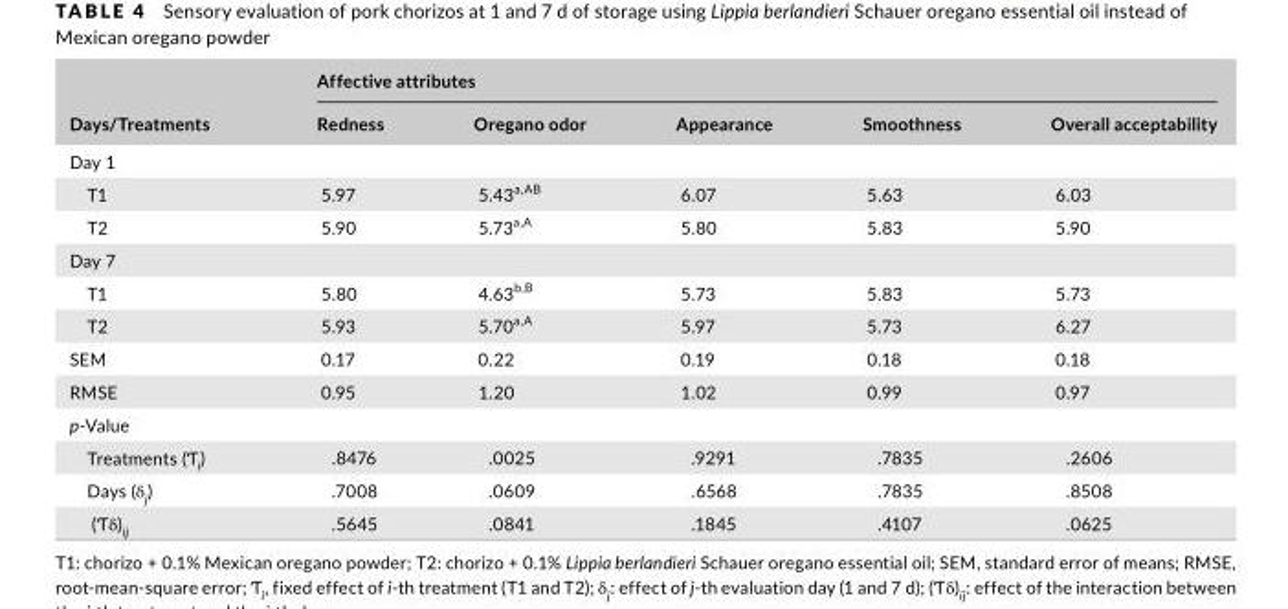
<table><thead><tr><td rowspan="2">Days/Treatments</td><td colspan="5">Affective attributes</td></tr><tr><td>Redness</td><td>Oregano odor</td><td>Appearance</td><td>Smoothness</td><td>Overall acceptability</td></tr></thead><tbody><tr><td colspan="6">Day 1</td></tr><tr><td>T1</td><td>5.97</td><td>5.43<sup>a,AB</sup></td><td>6.07</td><td>5.63</td><td>6.03</td></tr><tr><td>T2</td><td>5.90</td><td>5.73<sup>a,A</sup></td><td>5.80</td><td>5.83</td><td>5.90</td></tr><tr><td colspan="6">Day 7</td></tr><tr><td>T1</td><td>5.80</td><td>4.63<sup>b,B</sup></td><td>5.73</td><td>5.83</td><td>5.73</td></tr><tr><td>T2</td><td>5.93</td><td>5.70<sup>a,A</sup></td><td>5.97</td><td>5.73</td><td>6.27</td></tr><tr><td>SEM</td><td>0.17</td><td>0.22</td><td>0.19</td><td>0.18</td><td>0.18</td></tr><tr><td>RMSE</td><td>0.95</td><td>1.20</td><td>1.02</td><td>0.99</td><td>0.97</td></tr><tr><td colspan="6">p- Value</td></tr><tr><td>Treatments (Ƭ<sub>i</sub>)</td><td>.8476</td><td>.0025</td><td>.9291</td><td>.7835</td><td>.2606</td></tr><tr><td>Days (δ<sub>j</sub>)</td><td>.7008</td><td>.0609</td><td>.6568</td><td>.7835</td><td>.8508</td></tr><tr><td>(Ƭδ)<sub>ij</sub></td><td>.5645</td><td>.0841</td><td>.1845</td><td>.4107</td><td>.0625</td></tr></tbody></table>